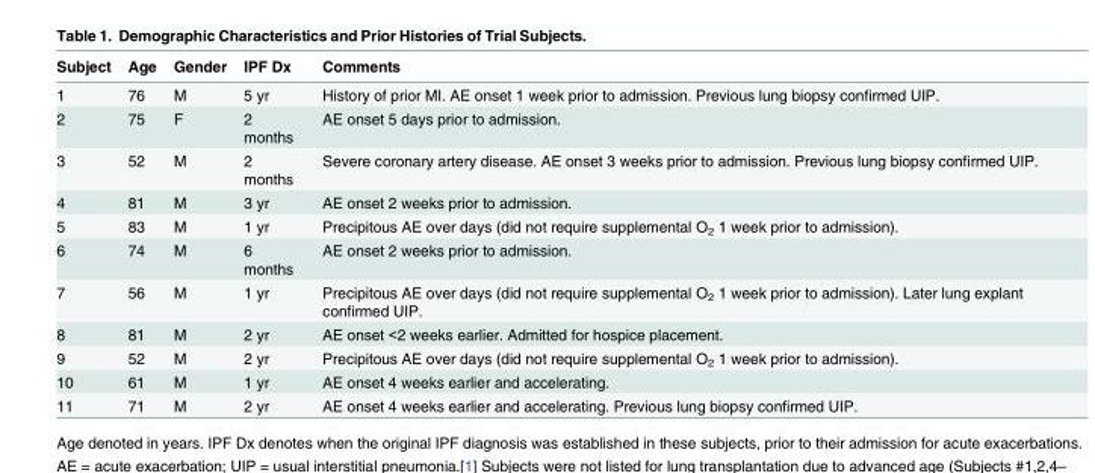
<table><thead><tr><td>Subject</td><td>Age</td><td>Gender</td><td>IPF Dx</td><td>Comments</td></tr></thead><tbody><tr><td>1</td><td>76</td><td>M</td><td>5 yr</td><td>History of prior MI. AE onset 1 week prior to admission. Previous lung biopsy confirmed UIP.</td></tr><tr><td>2</td><td>75</td><td>F</td><td>2 months</td><td>AE onset 5 days prior to admission.</td></tr><tr><td>3</td><td>52</td><td>M</td><td>2 months</td><td>Severe coronary artery disease. AE onset 3 weeks prior to admission. Previous lung biopsy confirmed UIP.</td></tr><tr><td>4</td><td>81</td><td>M</td><td>3 yr</td><td>AE onset 2 weeks prior to admission.</td></tr><tr><td>5</td><td>83</td><td>M</td><td>1 yr</td><td>Precipitous AE over days (did not require supplemental O<sub>2</sub> 1 week prior to admission).</td></tr><tr><td>6</td><td>74</td><td>M</td><td>6 months</td><td>AE onset 2 weeks prior to admission.</td></tr><tr><td>7</td><td>56</td><td>M</td><td>1 yr</td><td>Precipitous AE over days (did not require supplemental O<sub>2</sub> 1 week prior to admission). Later lung explant confirmed UIP.</td></tr><tr><td>8</td><td>81</td><td>M</td><td>2 yr</td><td>AE onset &lt;2 weeks earlier. Admitted for hospice placement.</td></tr><tr><td>9</td><td>52</td><td>M</td><td>2 yr</td><td>Precipitous AE over days (did not require supplemental O<sub>2</sub> 1 week prior to admission).</td></tr><tr><td>10</td><td>61</td><td>M</td><td>1 yr</td><td>AE onset 4 weeks earlier and accelerating.</td></tr><tr><td>11</td><td>71</td><td>M</td><td>2 yr</td><td>AE onset 4 weeks earlier and accelerating. Previous lung biopsy confirmed UIP.</td></tr></tbody></table>